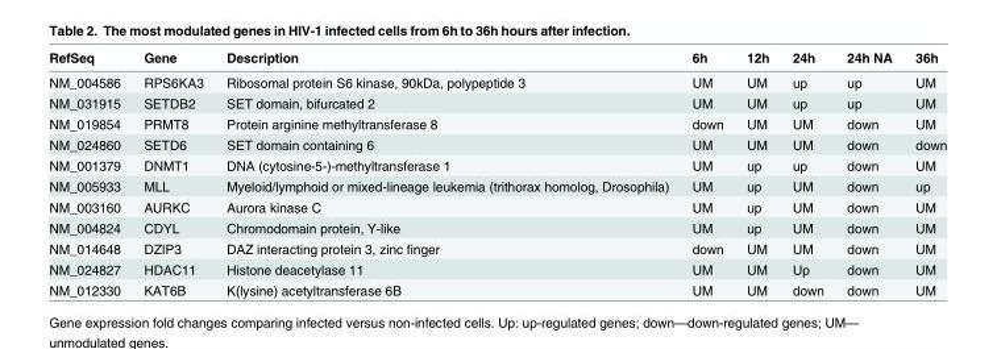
<table><thead><tr><td>RefSeq</td><td>Gene</td><td>Description</td><td>6h</td><td>12h</td><td>24h</td><td>24h NA</td><td>36h</td></tr></thead><tbody><tr><td>NM_004586</td><td>RPS6KA3</td><td>Ribosomal protein S6 kinase, 90kDa, polypeptide 3</td><td>UM</td><td>UM</td><td>up</td><td>up</td><td>UM</td></tr><tr><td>NM_031915</td><td>SETDB2</td><td>SET domain, bifurcated 2</td><td>UM</td><td>UM</td><td>up</td><td>up</td><td>UM</td></tr><tr><td>NM_019854</td><td>PRMT8</td><td>Protein arginine methyltransferase 8</td><td>down</td><td>UM</td><td>UM</td><td>down</td><td>UM</td></tr><tr><td>NM_024860</td><td>SETD6</td><td>SET domain containing 6</td><td>UM</td><td>UM</td><td>UM</td><td>down</td><td>down</td></tr><tr><td>NM_001379</td><td>DNMT1</td><td>DNA (cytosine-5-)-methyltransferase 1</td><td>UM</td><td>up</td><td>up</td><td>down</td><td>UM</td></tr><tr><td>NM_005933</td><td>MLL</td><td>Myeloid/lymphoid or mixed-lineage leukemia (trithorax homolog, Drosophila)</td><td>UM</td><td>up</td><td>UM</td><td>down</td><td>up</td></tr><tr><td>NM_003160</td><td>AURKC</td><td>Aurora kinase C</td><td>UM</td><td>up</td><td>UM</td><td>down</td><td>UM</td></tr><tr><td>NM_004824</td><td>CDYL</td><td>Chromodomain protein, Y-like</td><td>UM</td><td>up</td><td>UM</td><td>down</td><td>UM</td></tr><tr><td>NM_014648</td><td>DZIP3</td><td>DAZ interacting protein 3, zinc finger</td><td>down</td><td>UM</td><td>UM</td><td>down</td><td>UM</td></tr><tr><td>NM_024827</td><td>HDAC11</td><td>Histone deacetylase 11</td><td>UM</td><td>UM</td><td>Up</td><td>down</td><td>UM</td></tr><tr><td>NM_012330</td><td>KAT6B</td><td>K(lysine) acetyltransferase 6B</td><td>UM</td><td>UM</td><td>down</td><td>down</td><td>UM</td></tr></tbody></table>